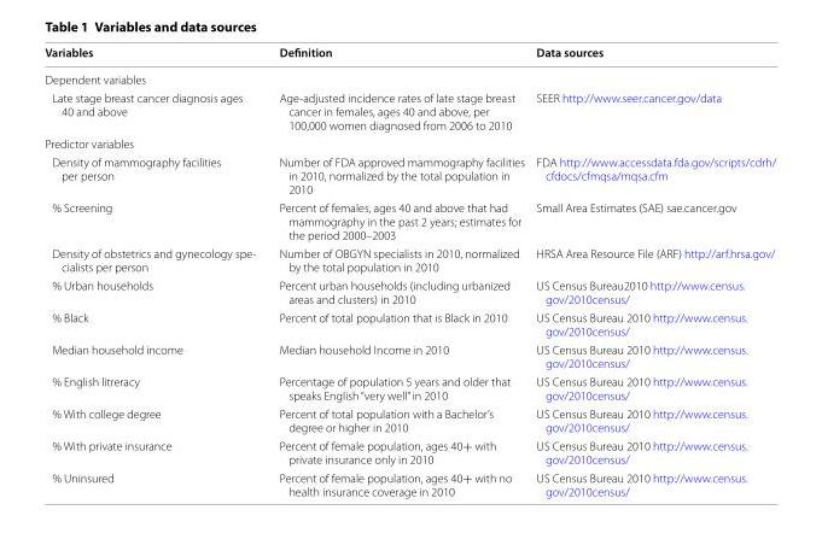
<table><thead><tr><td>Variables</td><td>Definition</td><td>Data sources</td></tr></thead><tbody><tr><td colspan="3">Dependent variables</td></tr><tr><td>Late stage breast cancer diagnosis ages 40 and above</td><td>Age-adjusted incidence rates of late stage breast cancer in females, ages 40 and above, per 100,000 women diagnosed from 2006 to 2010</td><td>SEER http://www.seer.cancer.gov/data</td></tr><tr><td colspan="3">Predictor variables</td></tr><tr><td>Density of mammography facilities per person</td><td>Number of FDA approved mammography facilities in 2010, normalized by the total population in 2010</td><td>FDA http://www.accessdata.fda.gov/scripts/cdrh/ cfdocs/cfmqsa/mqsa.cfm</td></tr><tr><td>% Screening</td><td>Percent of females, ages 40 and above that had mammography in the past 2 years; estimates for the period 2000–2003</td><td>Small Area Estimates (SAE) sae.cancer.gov</td></tr><tr><td>Density of obstetrics and gynecology spe- cialists per person</td><td>Number of OBGYN specialists in 2010, normalized by the total population in 2010</td><td>HRSA Area Resource File (ARF) http://arf.hrsa.gov/</td></tr><tr><td>% Urban households</td><td>Percent urban households (including urbanized areas and clusters) in 2010</td><td>US Census Bureau2010 http://www.census. gov/2010census/</td></tr><tr><td>% Black</td><td>Percent of total population that is Black in 2010</td><td>US Census Bureau 2010 http://www.census. gov/2010census/</td></tr><tr><td>Median household income</td><td>Median household Income in 2010</td><td>US Census Bureau 2010 http://www.census. gov/2010census/</td></tr><tr><td>% English litreracy</td><td>Percentage of population 5 years and older that speaks English “very well” in 2010</td><td>US Census Bureau 2010 http://www.census. gov/2010census/</td></tr><tr><td>% With college degree</td><td>Percent of total population with a Bachelor’s degree or higher in 2010</td><td>US Census Bureau 2010 http://www.census. gov/2010census/</td></tr><tr><td>% With private insurance</td><td>Percent of female population, ages 40+ with private insurance only in 2010</td><td>US Census Bureau 2010 http://www.census. gov/2010census/</td></tr><tr><td>% Uninsured</td><td>Percent of female population, ages 40+ with no health insurance coverage in 2010</td><td>US Census Bureau 2010 http://www.census. gov/2010census/</td></tr></tbody></table>